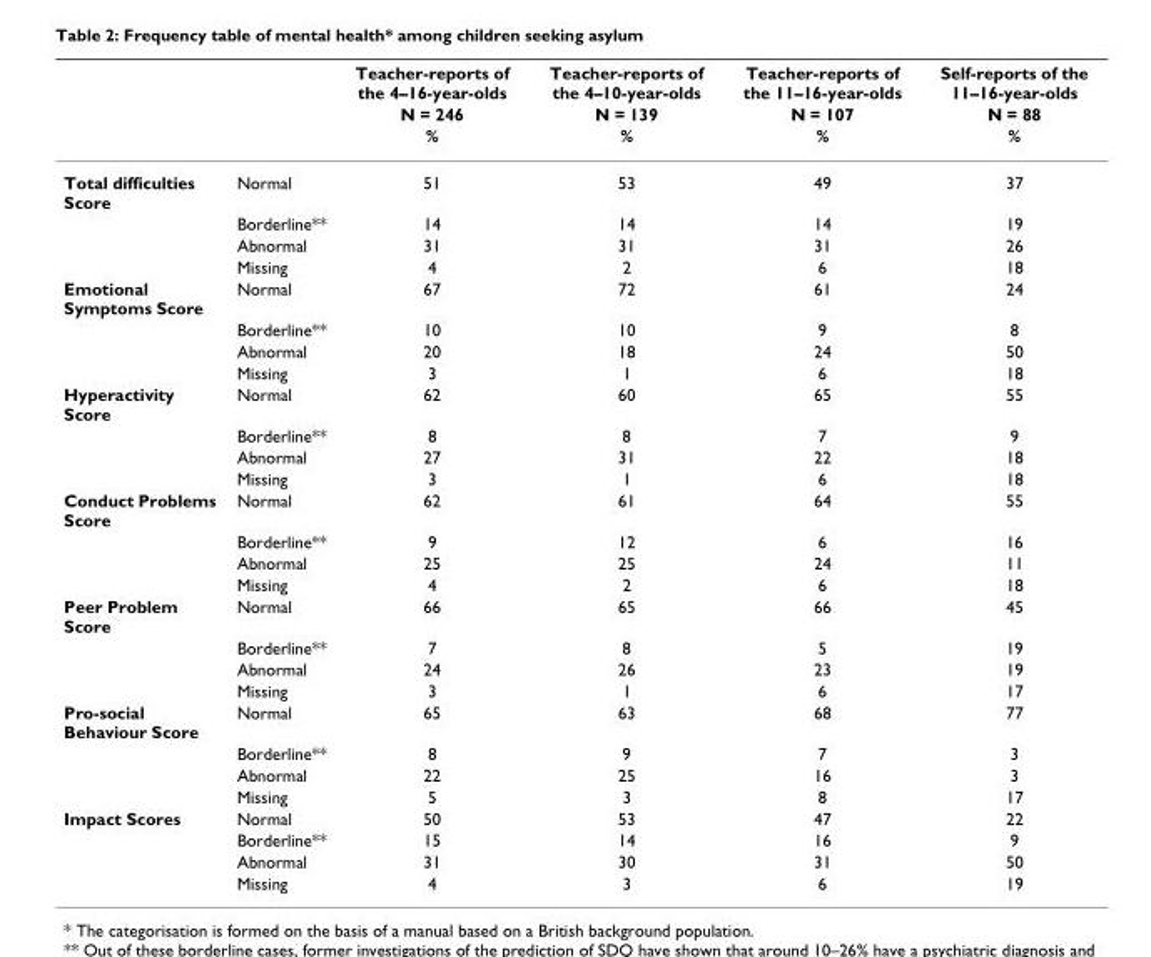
<table><thead><tr><td rowspan="3"></td><td rowspan="3"></td><td rowspan="3">Teacher-reports of the 4–16-year-olds N = 246 %</td><td rowspan="3">Teacher-reports of the 4–10-year-olds N = 139 %</td><td rowspan="3">Teacher-reports of the 11–16-year-olds N = 107 %</td><td rowspan="3">Self-reports of the 11–16-year-olds N = 88 %</td></tr><tr></tr><tr></tr></thead><tbody><tr><td rowspan="4">Total difficulties Score</td><td>Normal</td><td>51</td><td>53</td><td>49</td><td>37</td></tr><tr><td>Borderline**</td><td>14</td><td>14</td><td>14</td><td>19</td></tr><tr><td>Abnormal</td><td>31</td><td>31</td><td>31</td><td>26</td></tr><tr><td>Missing</td><td>4</td><td>2</td><td>6</td><td>18</td></tr><tr><td rowspan="4">Emotional Symptoms Score</td><td>Normal</td><td>67</td><td>72</td><td>61</td><td>24</td></tr><tr><td>Borderline**</td><td>10</td><td>10</td><td>9</td><td>8</td></tr><tr><td>Abnormal</td><td>20</td><td>18</td><td>24</td><td>50</td></tr><tr><td>Missing</td><td>3</td><td>1</td><td>6</td><td>18</td></tr><tr><td rowspan="4">Hyperactivity Score</td><td>Normal</td><td>62</td><td>60</td><td>65</td><td>55</td></tr><tr><td>Borderline**</td><td>8</td><td>8</td><td>7</td><td>9</td></tr><tr><td>Abnormal</td><td>27</td><td>31</td><td>22</td><td>18</td></tr><tr><td>Missing</td><td>3</td><td>1</td><td>6</td><td>18</td></tr><tr><td rowspan="4">Conduct Problems Score</td><td>Normal</td><td>62</td><td>61</td><td>64</td><td>55</td></tr><tr><td>Borderline**</td><td>9</td><td>12</td><td>6</td><td>16</td></tr><tr><td>Abnormal</td><td>25</td><td>25</td><td>24</td><td>11</td></tr><tr><td>Missing</td><td>4</td><td>2</td><td>6</td><td>18</td></tr><tr><td rowspan="4">Peer Problem Score</td><td>Normal</td><td>66</td><td>65</td><td>66</td><td>45</td></tr><tr><td>Borderline**</td><td>7</td><td>8</td><td>5</td><td>19</td></tr><tr><td>Abnormal</td><td>24</td><td>26</td><td>23</td><td>19</td></tr><tr><td>Missing</td><td>3</td><td>1</td><td>6</td><td>17</td></tr><tr><td rowspan="4">Pro-social Behaviour Score</td><td>Normal</td><td>65</td><td>63</td><td>68</td><td>77</td></tr><tr><td>Borderline**</td><td>8</td><td>9</td><td>7</td><td>3</td></tr><tr><td>Abnormal</td><td>22</td><td>25</td><td>16</td><td>3</td></tr><tr><td>Missing</td><td>5</td><td>3</td><td>8</td><td>17</td></tr><tr><td rowspan="4">Impact Scores</td><td>Normal</td><td>50</td><td>53</td><td>47</td><td>22</td></tr><tr><td>Borderline**</td><td>15</td><td>14</td><td>16</td><td>9</td></tr><tr><td>Abnormal</td><td>31</td><td>30</td><td>31</td><td>50</td></tr><tr><td>Missing</td><td>4</td><td>3</td><td>6</td><td>19</td></tr></tbody></table>